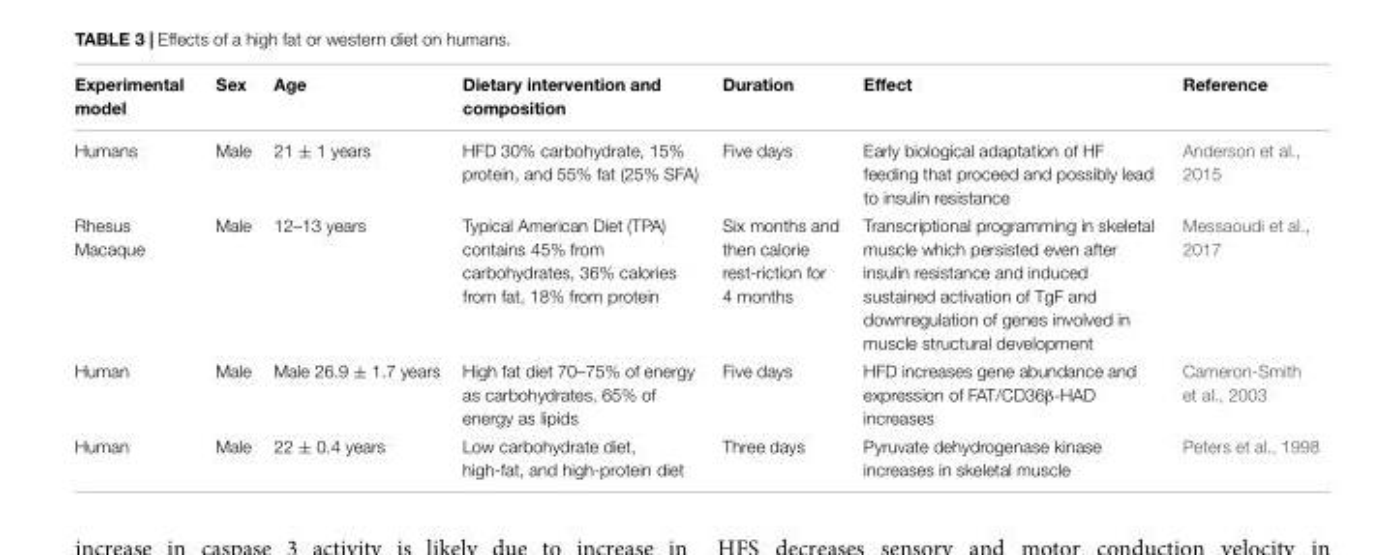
<table><thead><tr><td>Experimental model</td><td>Sex</td><td>Age</td><td>Dietary intervention and composition</td><td>Duration</td><td>Effect</td><td>Reference</td></tr></thead><tbody><tr><td>Humans</td><td>Male</td><td>21 ± 1 years</td><td>HFD 30% carbohydrate, 15% protein, and 55% fat (25% SFA)</td><td>Five days</td><td>Early biological adaptation of HF feeding that proceed and possibly lead to insulin resistance</td><td>Anderson et al., 2015</td></tr><tr><td>Rhesus Macaque</td><td>Male</td><td>12–13 years</td><td>Typical American Diet (TPA) contains 45% from carbohydrates, 36% calories from fat, 18% from protein</td><td>Six months and then calorie rest-riction for 4 months</td><td>Transcriptional programming in skeletal muscle which persisted even after insulin resistance and induced sustained activation of TgF and downregulation of genes involved in muscle structural development</td><td>Messaoudi et al., 2017</td></tr><tr><td>Human</td><td>Male</td><td>Male 26.9 ± 1.7 years</td><td>High fat diet 70–75% of energy as carbohydrates, 65% of energy as lipids</td><td>Five days</td><td>HFD increases gene abundance and expression of FAT/CD36β-HAD increases</td><td>Cameron-Smith et al., 2003</td></tr><tr><td>Human</td><td>Male</td><td>22 ± 0.4 years</td><td>Low carbohydrate diet, high-fat, and high-protein diet</td><td>Three days</td><td>Pyruvate dehydrogenase kinase increases in skeletal muscle</td><td>Peters et al., 1998</td></tr></tbody></table>